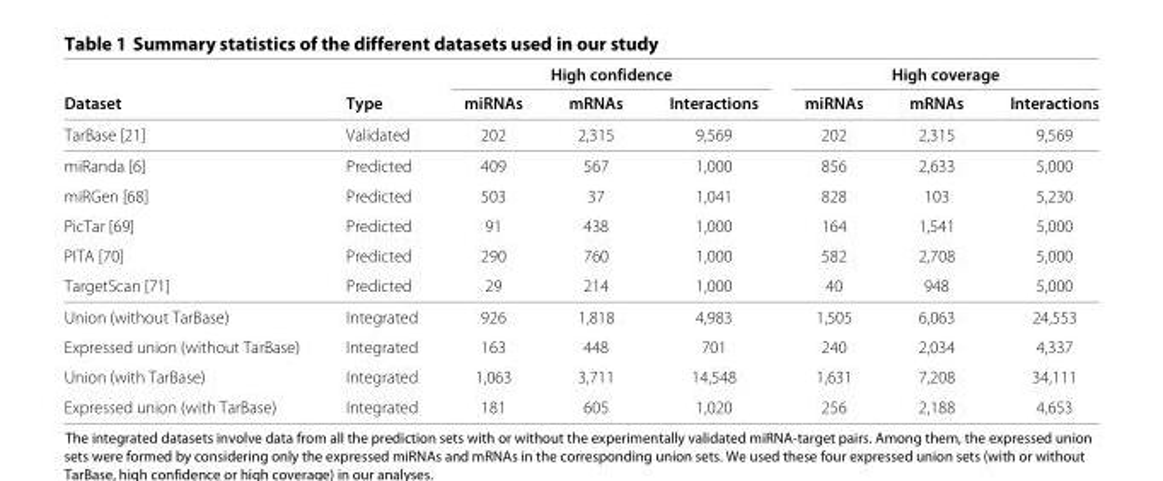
<table><thead><tr><td rowspan="2">Dataset</td><td rowspan="2">Type</td><td colspan="3">High confidence</td><td colspan="3">High coverage</td></tr><tr><td>miRNAs</td><td>mRNAs</td><td>Interactions</td><td>miRNAs</td><td>mRNAs</td><td>Interactions</td></tr></thead><tbody><tr><td>TarBase [21]</td><td>Validated</td><td>202</td><td>2,315</td><td>9,569</td><td>202</td><td>2,315</td><td>9,569</td></tr><tr><td>miRanda [6]</td><td>Predicted</td><td>409</td><td>567</td><td>1,000</td><td>856</td><td>2,633</td><td>5,000</td></tr><tr><td>miRGen [68]</td><td>Predicted</td><td>503</td><td>37</td><td>1,041</td><td>828</td><td>103</td><td>5,230</td></tr><tr><td>PicTar [69]</td><td>Predicted</td><td>91</td><td>438</td><td>1,000</td><td>164</td><td>1,541</td><td>5,000</td></tr><tr><td>PITA [70]</td><td>Predicted</td><td>290</td><td>760</td><td>1,000</td><td>582</td><td>2,708</td><td>5,000</td></tr><tr><td>TargetScan [71]</td><td>Predicted</td><td>29</td><td>214</td><td>1,000</td><td>40</td><td>948</td><td>5,000</td></tr><tr><td>Union (without TarBase)</td><td>Integrated</td><td>926</td><td>1,818</td><td>4,983</td><td>1,505</td><td>6,063</td><td>24,553</td></tr><tr><td>Expressed union (without TarBase)</td><td>Integrated</td><td>163</td><td>448</td><td>701</td><td>240</td><td>2,034</td><td>4,337</td></tr><tr><td>Union (with TarBase)</td><td>Integrated</td><td>1,063</td><td>3,711</td><td>14,548</td><td>1,631</td><td>7,208</td><td>34,111</td></tr><tr><td>Expressed union (with TarBase)</td><td>Integrated</td><td>181</td><td>605</td><td>1,020</td><td>256</td><td>2,188</td><td>4,653</td></tr></tbody></table>